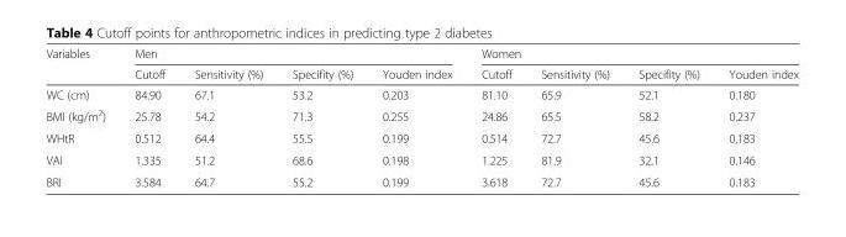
<table><thead><tr><td rowspan="2">Variables</td><td colspan="4">Men</td><td colspan="4">Women</td></tr><tr><td>Cutoff</td><td>Sensitivity (%)</td><td>Specifity (%)</td><td>Youden index</td><td>Cutoff</td><td>Sensitivity (%)</td><td>Specifity (%)</td><td>Youden index</td></tr></thead><tbody><tr><td>WC (cm)</td><td>84.90</td><td>67.1</td><td>53.2</td><td>0.203</td><td>81.10</td><td>65.9</td><td>52.1</td><td>0.180</td></tr><tr><td>BMI (kg/m<sup>2</sup>)</td><td>25.78</td><td>54.2</td><td>71.3</td><td>0.255</td><td>24.86</td><td>65.5</td><td>58.2</td><td>0.237</td></tr><tr><td>WHtR</td><td>0.512</td><td>64.4</td><td>55.5</td><td>0.199</td><td>0.514</td><td>72.7</td><td>45.6</td><td>0.183</td></tr><tr><td>VAI</td><td>1.335</td><td>51.2</td><td>68.6</td><td>0.198</td><td>1.225</td><td>81.9</td><td>32.1</td><td>0.146</td></tr><tr><td>BRI</td><td>3.584</td><td>64.7</td><td>55.2</td><td>0.199</td><td>3.618</td><td>72.7</td><td>45.6</td><td>0.183</td></tr></tbody></table>